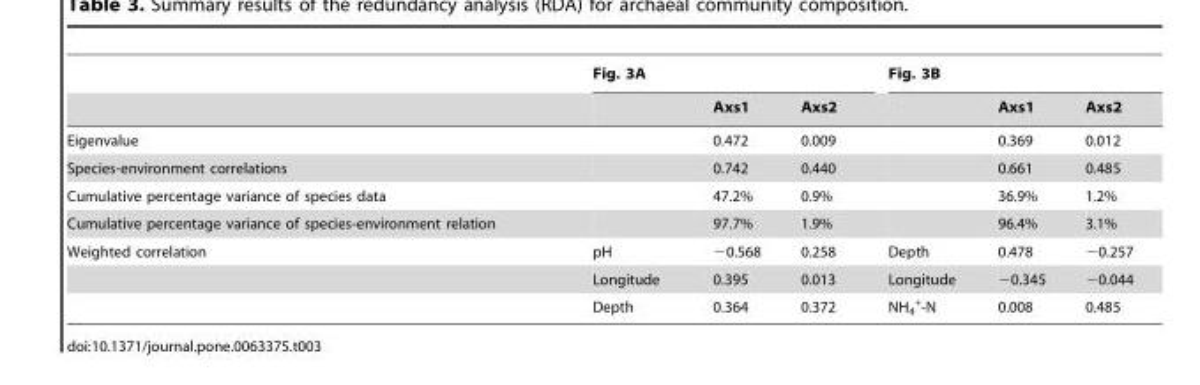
<table><thead><tr><td rowspan="2"></td><td colspan="3">Fig. 3A</td><td colspan="3">Fig. 3B</td></tr><tr><td></td><td>Axs1</td><td>Axs2</td><td></td><td>Axs1</td><td>Axs2</td></tr></thead><tbody><tr><td>Eigenvalue</td><td></td><td>0.472</td><td>0.009</td><td></td><td>0.369</td><td>0.012</td></tr><tr><td>Species-environment correlations</td><td></td><td>0.742</td><td>0.440</td><td></td><td>0.661</td><td>0.485</td></tr><tr><td>Cumulative percentage variance of species data</td><td></td><td>47.2%</td><td>0.9%</td><td></td><td>36.9%</td><td>1.2%</td></tr><tr><td>Cumulative percentage variance of species-environment relation</td><td></td><td>97.7%</td><td>1.9%</td><td></td><td>96.4%</td><td>3.1%</td></tr><tr><td rowspan="3">Weighted correlation</td><td>pH</td><td>−0.568</td><td>0.258</td><td>Depth</td><td>0.478</td><td>−0.257</td></tr><tr><td>Longitude</td><td>0.395</td><td>0.013</td><td>Longitude</td><td>−0.345</td><td>−0.044</td></tr><tr><td>Depth</td><td>0.364</td><td>0.372</td><td>NH<sub>4</sub> <sup>+</sup>-N</td><td>0.008</td><td>0.485</td></tr></tbody></table>